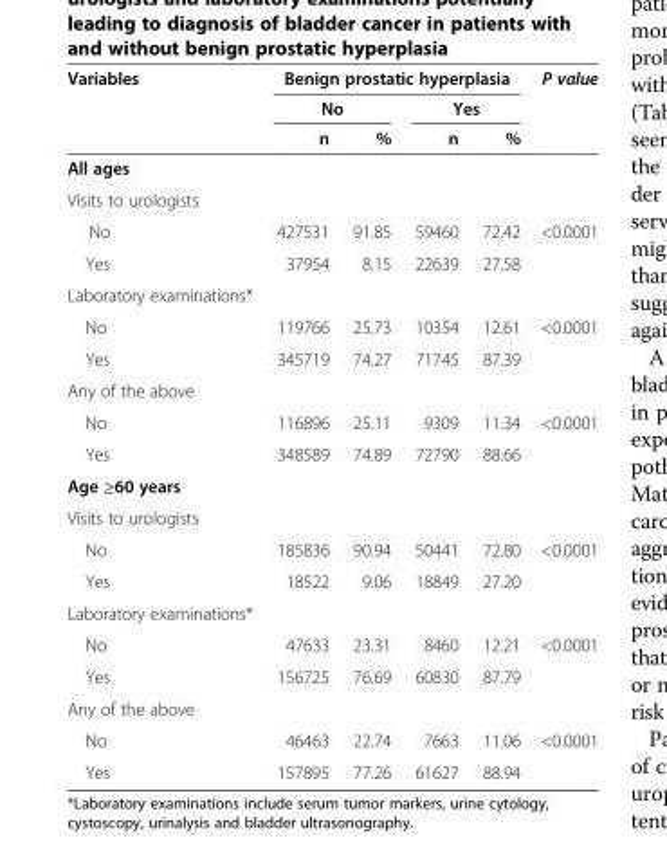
<table><thead><tr><td rowspan="3">Variables</td><td colspan="4">Benign prostatic hyperplasia</td><td rowspan="3">P value</td></tr><tr><td colspan="2">No</td><td colspan="2">Yes</td></tr><tr><td>n</td><td>%</td><td>n</td><td>%</td></tr></thead><tbody><tr><td colspan="6">All ages</td></tr><tr><td colspan="6">Visits to urologists</td></tr><tr><td>No</td><td>427531</td><td>91.85</td><td>59460</td><td>72.42</td><td>&lt;0.0001</td></tr><tr><td>Yes</td><td>37954</td><td>8.15</td><td>22639</td><td>27.58</td><td></td></tr><tr><td colspan="6">Laboratory examinations*</td></tr><tr><td>No</td><td>119766</td><td>25.73</td><td>10354</td><td>12.61</td><td>&lt;0.0001</td></tr><tr><td>Yes</td><td>345719</td><td>74.27</td><td>71745</td><td>87.39</td><td></td></tr><tr><td colspan="6">Any of the above</td></tr><tr><td>No</td><td>116896</td><td>25.11</td><td>9309</td><td>11.34</td><td>&lt;0.0001</td></tr><tr><td>Yes</td><td>348589</td><td>74.89</td><td>72790</td><td>88.66</td><td></td></tr><tr><td colspan="6">Age ≥60 years</td></tr><tr><td colspan="6">Visits to urologists</td></tr><tr><td>No</td><td>185836</td><td>90.94</td><td>50441</td><td>72.80</td><td>&lt;0.0001</td></tr><tr><td>Yes</td><td>18522</td><td>9.06</td><td>18849</td><td>27.20</td><td></td></tr><tr><td colspan="6">Laboratory examinations*</td></tr><tr><td>No</td><td>47633</td><td>23.31</td><td>8460</td><td>12.21</td><td>&lt;0.0001</td></tr><tr><td>Yes</td><td>156725</td><td>76.69</td><td>60830</td><td>87.79</td><td></td></tr><tr><td colspan="6">Any of the above</td></tr><tr><td>No</td><td>46463</td><td>22.74</td><td>7663</td><td>11.06</td><td>&lt;0.0001</td></tr><tr><td>Yes</td><td>157895</td><td>77.26</td><td>61627</td><td>88.94</td><td></td></tr></tbody></table>